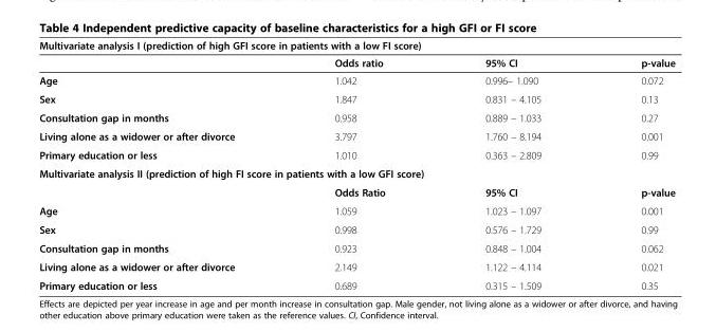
<table><thead><tr><td colspan="4">Multivariate analysis I (prediction of high GFI score in patients with a low FI score)</td></tr><tr><td></td><td>Odds ratio</td><td>95% CI</td><td>p-value</td></tr></thead><tbody><tr><td>Age</td><td>1.042</td><td>0.996– 1.090</td><td>0.072</td></tr><tr><td>Sex</td><td>1.847</td><td>0.831 – 4.105</td><td>0.13</td></tr><tr><td>Consultation gap in months</td><td>0.958</td><td>0.889 – 1.033</td><td>0.27</td></tr><tr><td>Living alone as a widower or after divorce</td><td>3.797</td><td>1.760 – 8.194</td><td>0.001</td></tr><tr><td>Primary education or less</td><td>1.010</td><td>0.363 – 2.809</td><td>0.99</td></tr><tr><td colspan="4">Multivariate analysis II (prediction of high FI score in patients with a low GFI score)</td></tr><tr><td></td><td>Odds Ratio</td><td>95% CI</td><td>p-value</td></tr><tr><td>Age</td><td>1.059</td><td>1.023 – 1.097</td><td>0.001</td></tr><tr><td>Sex</td><td>0.998</td><td>0.576 – 1.729</td><td>0.99</td></tr><tr><td>Consultation gap in months</td><td>0.923</td><td>0.848 – 1.004</td><td>0.062</td></tr><tr><td>Living alone as a widower or after divorce</td><td>2.149</td><td>1.122 – 4.114</td><td>0.021</td></tr><tr><td>Primary education or less</td><td>0.689</td><td>0.315 – 1.509</td><td>0.35</td></tr></tbody></table>